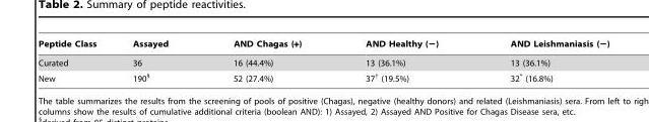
<table><thead><tr><td>Peptide Class</td><td>Assayed</td><td>AND Chagas (+)</td><td>AND Healthy (−)</td><td>AND Leishmaniasis (−)</td></tr></thead><tbody><tr><td>Curated</td><td>36</td><td>16 (44.4%)</td><td>13 (36.1%)</td><td>13 (36.1%)</td></tr><tr><td>New</td><td>190§</td><td>52 (27.4%)</td><td>37† (19.5%)</td><td>32* (16.8%)</td></tr></tbody></table>